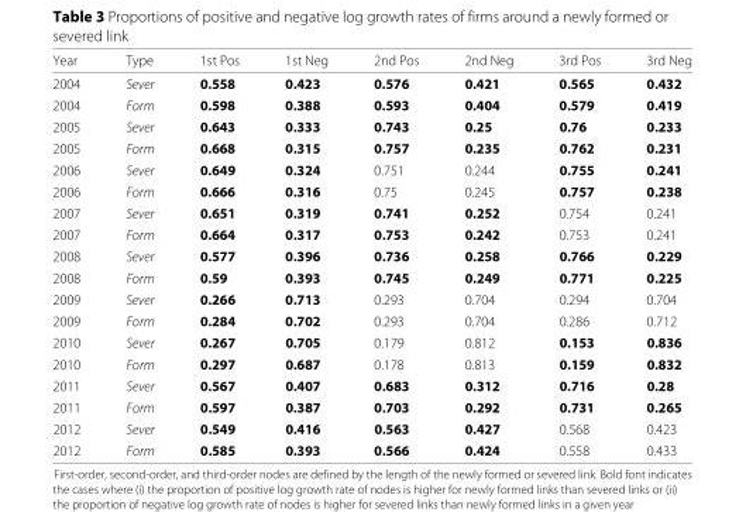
<table><thead><tr><td>Year</td><td>Type</td><td>1st Pos</td><td>1st Neg</td><td>2nd Pos</td><td>2nd Neg</td><td>3rd Pos</td><td>3rd Neg</td></tr></thead><tbody><tr><td>2004</td><td>Sever</td><td>0.558</td><td>0.423</td><td>0.576</td><td>0.421</td><td>0.565</td><td>0.432</td></tr><tr><td>2004</td><td>Form</td><td>0.598</td><td>0.388</td><td>0.593</td><td>0.404</td><td>0.579</td><td>0.419</td></tr><tr><td>2005</td><td>Sever</td><td>0.643</td><td>0.333</td><td>0.743</td><td>0.25</td><td>0.76</td><td>0.233</td></tr><tr><td>2005</td><td>Form</td><td>0.668</td><td>0.315</td><td>0.757</td><td>0.235</td><td>0.762</td><td>0.231</td></tr><tr><td>2006</td><td>Sever</td><td>0.649</td><td>0.324</td><td>0.751</td><td>0.244</td><td>0.755</td><td>0.241</td></tr><tr><td>2006</td><td>Form</td><td>0.666</td><td>0.316</td><td>0.75</td><td>0.245</td><td>0.757</td><td>0.238</td></tr><tr><td>2007</td><td>Sever</td><td>0.651</td><td>0.319</td><td>0.741</td><td>0.252</td><td>0.754</td><td>0.241</td></tr><tr><td>2007</td><td>Form</td><td>0.664</td><td>0.317</td><td>0.753</td><td>0.242</td><td>0.753</td><td>0.241</td></tr><tr><td>2008</td><td>Sever</td><td>0.577</td><td>0.396</td><td>0.736</td><td>0.258</td><td>0.766</td><td>0.229</td></tr><tr><td>2008</td><td>Form</td><td>0.59</td><td>0.393</td><td>0.745</td><td>0.249</td><td>0.771</td><td>0.225</td></tr><tr><td>2009</td><td>Sever</td><td>0.266</td><td>0.713</td><td>0.293</td><td>0.704</td><td>0.294</td><td>0.704</td></tr><tr><td>2009</td><td>Form</td><td>0.284</td><td>0.702</td><td>0.293</td><td>0.704</td><td>0.286</td><td>0.712</td></tr><tr><td>2010</td><td>Sever</td><td>0.267</td><td>0.705</td><td>0.179</td><td>0.812</td><td>0.153</td><td>0.836</td></tr><tr><td>2010</td><td>Form</td><td>0.297</td><td>0.687</td><td>0.178</td><td>0.813</td><td>0.159</td><td>0.832</td></tr><tr><td>2011</td><td>Sever</td><td>0.567</td><td>0.407</td><td>0.683</td><td>0.312</td><td>0.716</td><td>0.28</td></tr><tr><td>2011</td><td>Form</td><td>0.597</td><td>0.387</td><td>0.703</td><td>0.292</td><td>0.731</td><td>0.265</td></tr><tr><td>2012</td><td>Sever</td><td>0.549</td><td>0.416</td><td>0.563</td><td>0.427</td><td>0.568</td><td>0.423</td></tr><tr><td>2012</td><td>Form</td><td>0.585</td><td>0.393</td><td>0.566</td><td>0.424</td><td>0.558</td><td>0.433</td></tr></tbody></table>